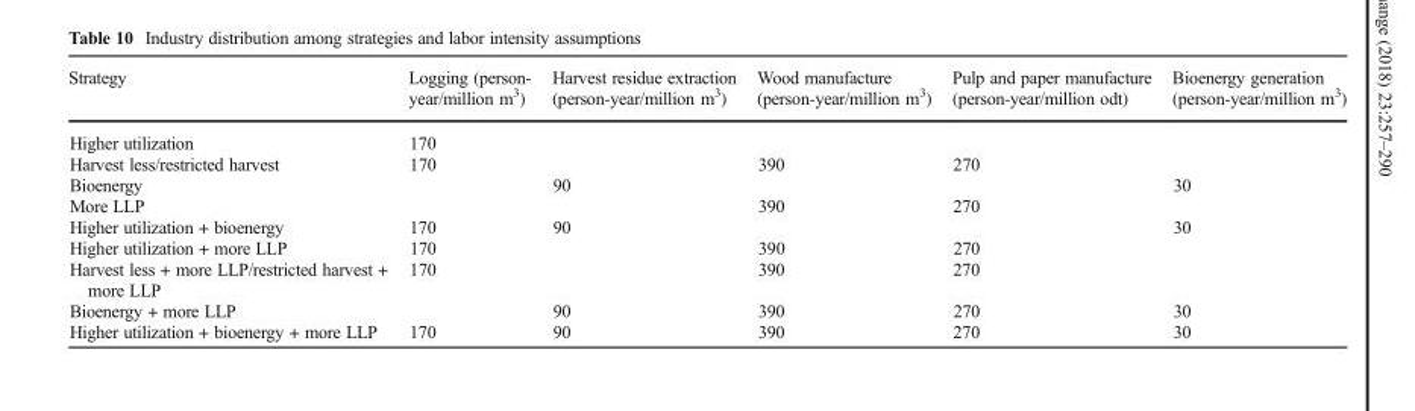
<table><thead><tr><td>Strategy</td><td>Logging (person- year/million m<sup>3</sup>)</td><td>Harvest residue extraction (person-year/million m<sup>3</sup>)</td><td>Wood manufacture (person-year/million m<sup>3</sup>)</td><td>Pulp and paper manufacture (person-year/million odt)</td><td>Bioenergy generation (person-year/million m<sup>3</sup>)</td></tr></thead><tbody><tr><td>Higher utilization</td><td>170</td><td></td><td></td><td></td><td></td></tr><tr><td>Harvest less/restricted harvest</td><td>170</td><td></td><td>390</td><td>270</td><td></td></tr><tr><td>Bioenergy</td><td></td><td>90</td><td></td><td></td><td>30</td></tr><tr><td>More LLP</td><td></td><td></td><td>390</td><td>270</td><td></td></tr><tr><td>Higher utilization + bioenergy</td><td>170</td><td>90</td><td></td><td></td><td>30</td></tr><tr><td>Higher utilization + more LLP</td><td>170</td><td></td><td>390</td><td>270</td><td></td></tr><tr><td>Harvest less + more LLP/restricted harvest + more LLP</td><td>170</td><td></td><td>390</td><td>270</td><td></td></tr><tr><td>Bioenergy + more LLP</td><td></td><td>90</td><td>390</td><td>270</td><td>30</td></tr><tr><td>Higher utilization + bioenergy + more LLP</td><td>170</td><td>90</td><td>390</td><td>270</td><td>30</td></tr></tbody></table>